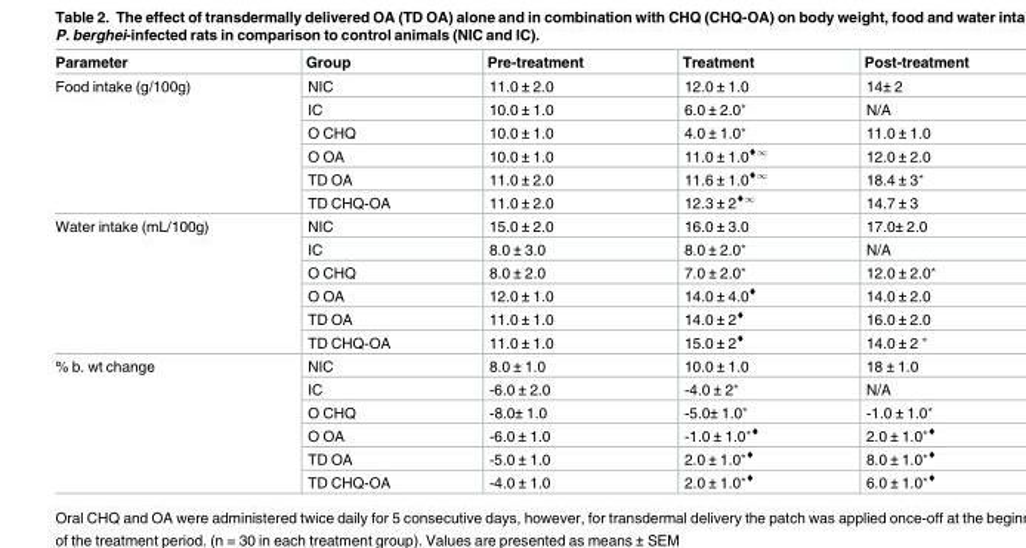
<table><thead><tr><td>Parameter</td><td>Group</td><td>Pre-treatment</td><td>Treatment</td><td>Post-treatment</td></tr></thead><tbody><tr><td rowspan="6">Food intake (g/100g)</td><td>NIC</td><td>11.0 ± 2.0</td><td>12.0 ± 1.0</td><td>14± 2</td></tr><tr><td>IC</td><td>10.0 ± 1.0</td><td>6.0 ± 2.0<sup>⋆</sup></td><td>N/A</td></tr><tr><td>O CHQ</td><td>10.0 ± 1.0</td><td>4.0 ± 1.0<sup>⋆</sup></td><td>11.0 ± 1.0</td></tr><tr><td>O OA</td><td>10.0 ± 1.0</td><td>11.0 ± 1.0<sup>♦∞</sup></td><td>12.0 ± 2.0</td></tr><tr><td>TD OA</td><td>11.0 ± 2.0</td><td>11.6 ± 1.0<sup>♦∞</sup></td><td>18.4 ± 3<sup>⋆</sup></td></tr><tr><td>TD CHQ-OA</td><td>11.0 ± 2.0</td><td>12.3 ± 2<sup>♦∞</sup></td><td>14.7 ± 3</td></tr><tr><td rowspan="6">Water intake (mL/100g)</td><td>NIC</td><td>15.0 ± 2.0</td><td>16.0 ± 3.0</td><td>17.0± 2.0</td></tr><tr><td>IC</td><td>8.0 ± 3.0</td><td>8.0 ± 2.0<sup>⋆</sup></td><td>N/A</td></tr><tr><td>O CHQ</td><td>8.0 ± 2.0</td><td>7.0 ± 2.0<sup>⋆</sup></td><td>12.0 ± 2.0<sup>⋆</sup></td></tr><tr><td>O OA</td><td>12.0 ± 1.0</td><td>14.0 ± 4.0<sup>♦</sup></td><td>14.0 ± 2.0</td></tr><tr><td>TD OA</td><td>11.0 ± 1.0</td><td>14.0 ± 2<sup>♦</sup></td><td>16.0 ± 2.0</td></tr><tr><td>TD CHQ-OA</td><td>11.0 ± 1.0</td><td>15.0 ± 2<sup>♦</sup></td><td>14.0 ± 2 <sup>⋆</sup></td></tr><tr><td rowspan="6">% b. wt change</td><td>NIC</td><td>8.0 ± 1.0</td><td>10.0 ± 1.0</td><td>18 ± 1.0</td></tr><tr><td>IC</td><td>-6.0 ± 2.0</td><td>-4.0 ± 2<sup>⋆</sup></td><td>N/A</td></tr><tr><td>O CHQ</td><td>-8.0± 1.0</td><td>-5.0± 1.0<sup>⋆</sup></td><td>-1.0 ± 1.0<sup>⋆</sup></td></tr><tr><td>O OA</td><td>-6.0 ± 1.0</td><td>-1.0 ± 1.0<sup>⋆♦</sup></td><td>2.0 ± 1.0<sup>⋆♦</sup></td></tr><tr><td>TD OA</td><td>-5.0 ± 1.0</td><td>2.0 ± 1.0<sup>⋆♦</sup></td><td>8.0 ± 1.0<sup>⋆♦</sup></td></tr><tr><td>TD CHQ-OA</td><td>-4.0 ± 1.0</td><td>2.0 ± 1.0<sup>⋆♦</sup></td><td>6.0 ± 1.0<sup>⋆♦</sup></td></tr></tbody></table>